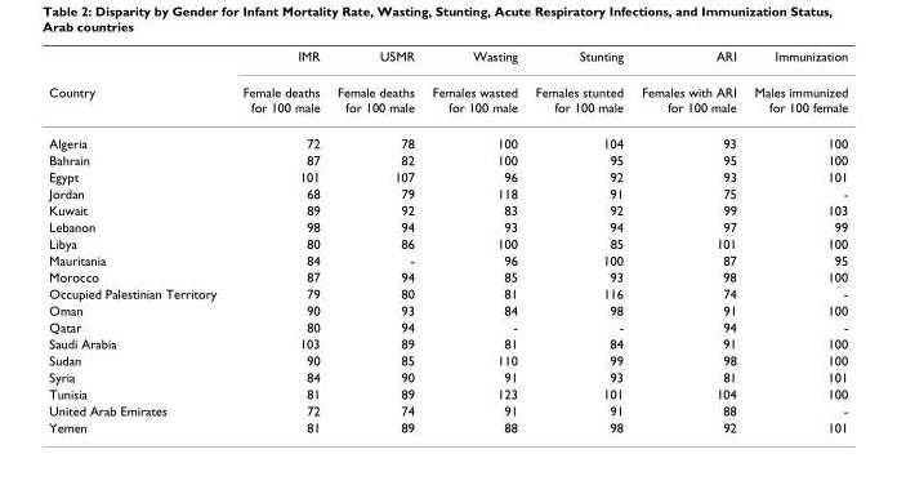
<table><thead><tr><td rowspan="2">Country</td><td rowspan="2">IMR Female deaths for 100 male</td><td rowspan="2">U5MR Female deaths for 100 male</td><td rowspan="2">Wasting Females wasted for 100 male</td><td rowspan="2">Stunting Females stunted for 100 male</td><td rowspan="2">ARI Females with ARI for 100 male</td><td rowspan="2">Immunization Males immunized for 100 female</td></tr><tr></tr></thead><tbody><tr><td>Algeria</td><td>72</td><td>78</td><td>100</td><td>104</td><td>93</td><td>100</td></tr><tr><td>Bahrain</td><td>87</td><td>82</td><td>100</td><td>95</td><td>95</td><td>100</td></tr><tr><td>Egypt</td><td>101</td><td>107</td><td>96</td><td>92</td><td>93</td><td>101</td></tr><tr><td>Jordan</td><td>68</td><td>79</td><td>118</td><td>91</td><td>75</td><td>-</td></tr><tr><td>Kuwait</td><td>89</td><td>92</td><td>83</td><td>92</td><td>99</td><td>103</td></tr><tr><td>Lebanon</td><td>98</td><td>94</td><td>93</td><td>94</td><td>97</td><td>99</td></tr><tr><td>Libya</td><td>80</td><td>86</td><td>100</td><td>85</td><td>101</td><td>100</td></tr><tr><td>Mauritania</td><td>84</td><td>-</td><td>96</td><td>100</td><td>87</td><td>95</td></tr><tr><td>Morocco</td><td>87</td><td>94</td><td>85</td><td>93</td><td>98</td><td>100</td></tr><tr><td>Occupied Palestinian Territory</td><td>79</td><td>80</td><td>81</td><td>116</td><td>74</td><td>-</td></tr><tr><td>Oman</td><td>90</td><td>93</td><td>84</td><td>98</td><td>91</td><td>100</td></tr><tr><td>Qatar</td><td>80</td><td>94</td><td>-</td><td>-</td><td>94</td><td>-</td></tr><tr><td>Saudi Arabia</td><td>103</td><td>89</td><td>81</td><td>84</td><td>91</td><td>100</td></tr><tr><td>Sudan</td><td>90</td><td>85</td><td>110</td><td>99</td><td>98</td><td>100</td></tr><tr><td>Syria</td><td>84</td><td>90</td><td>91</td><td>93</td><td>81</td><td>101</td></tr><tr><td>Tunisia</td><td>81</td><td>89</td><td>123</td><td>101</td><td>104</td><td>100</td></tr><tr><td>United Arab Emirates</td><td>72</td><td>74</td><td>91</td><td>91</td><td>88</td><td>-</td></tr><tr><td>Yemen</td><td>81</td><td>89</td><td>88</td><td>98</td><td>92</td><td>101</td></tr></tbody></table>